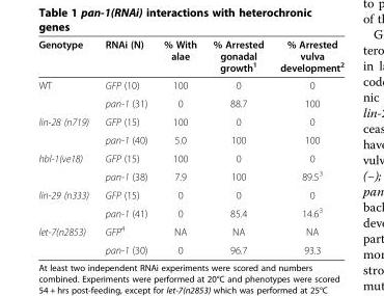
<table><thead><tr><td>Genotype</td><td>RNAi (N)</td><td>% With alae</td><td>% Arrested gonadal growth<sup>1</sup></td><td>% Arrested vulva development<sup>2</sup></td></tr></thead><tbody><tr><td rowspan="2">WT</td><td>GFP (10)</td><td>100</td><td>0</td><td>0</td></tr><tr><td>pan-1 (31)</td><td>0</td><td>88.7</td><td>100</td></tr><tr><td rowspan="2">lin-28 (n719)</td><td>GFP (15)</td><td>100</td><td>0</td><td>0</td></tr><tr><td>pan-1 (40)</td><td>5.0</td><td>100</td><td>100</td></tr><tr><td rowspan="2">hbl-1(ve18)</td><td>GFP (15)</td><td>100</td><td>0</td><td>0</td></tr><tr><td>pan-1 (38)</td><td>7.9</td><td>100</td><td>89.5<sup>3</sup></td></tr><tr><td rowspan="2">lin-29 (n333)</td><td>GFP (15)</td><td>0</td><td>0</td><td>0</td></tr><tr><td>pan-1 (41)</td><td>0</td><td>85.4</td><td>14.6<sup>3</sup></td></tr><tr><td rowspan="2">let-7(n2853)</td><td>GFP<sup>4</sup></td><td>NA</td><td>NA</td><td>NA</td></tr><tr><td>pan-1 (30)</td><td>0</td><td>96.7</td><td>93.3</td></tr></tbody></table>